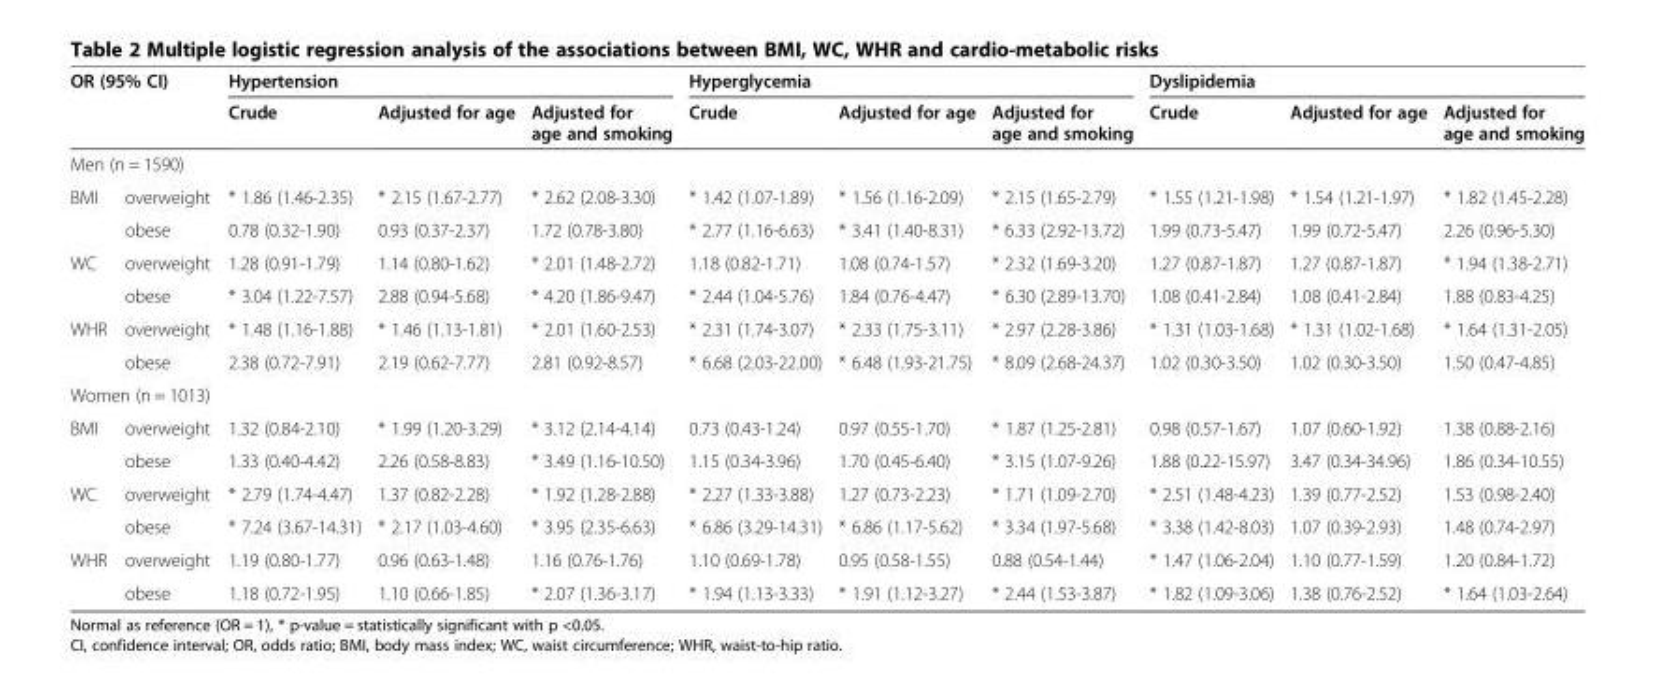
<table><thead><tr><td rowspan="3" colspan="2">OR (95% CI) Men (n = 1590)</td><td colspan="3">Hypertension</td><td colspan="3">Hyperglycemia</td><td colspan="3">Dyslipidemia</td></tr><tr><td rowspan="3">Crude * 1.86 (1.46-2.35)</td><td rowspan="3">Adjusted for age * 2.15 (1.67-2.77)</td><td rowspan="3">Adjusted for age and smoking * 2.62 (2.08-3.30)</td><td rowspan="3">Crude * 1.42 (1.07-1.89)</td><td rowspan="3">Adjusted for age * 1.56 (1.16-2.09)</td><td rowspan="3">Adjusted for age and smoking * 2.15 (1.65-2.79)</td><td rowspan="3">Crude * 1.55 (1.21-1.98)</td><td rowspan="3">Adjusted for age * 1.54 (1.21-1.97)</td><td rowspan="3">Adjusted for age and smoking * 1.82 (1.45-2.28)</td></tr><tr></tr><tr><td>BMI</td><td>overweight</td></tr></thead><tbody><tr><td></td><td>obese</td><td>0.78 (0.32-1.90)</td><td>0.93 (0.37-2.37)</td><td>1.72 (0.78-3.80)</td><td>* 2.77 (1.16-6.63)</td><td>* 3.41 (1.40-8.31)</td><td>* 6.33 (2.92-13.72)</td><td>1.99 (0.73-5.47)</td><td>1.99 (0.72-5.47)</td><td>2.26 (0.96-5.30)</td></tr><tr><td rowspan="2">WC</td><td>overweight</td><td>1.28 (0.91-1.79)</td><td>1.14 (0.80-1.62)</td><td>* 2.01 (1.48-2.72)</td><td>1.18 (0.82-1.71)</td><td>1.08 (0.74-1.57)</td><td>* 2.32 (1.69-3.20)</td><td>1.27 (0.87-1.87)</td><td>1.27 (0.87-1.87)</td><td>* 1.94 (1.38-2.71)</td></tr><tr><td>obese</td><td>* 3.04 (1.22-7.57)</td><td>2.88 (0.94-5.68)</td><td>* 4.20 (1.86-9.47)</td><td>* 2.44 (1.04-5.76)</td><td>1.84 (0.76-4.47)</td><td>* 6.30 (2.89-13.70)</td><td>1.08 (0.41-2.84)</td><td>1.08 (0.41-2.84)</td><td>1.88 (0.83-4.25)</td></tr><tr><td rowspan="2">WHR</td><td>overweight</td><td>* 1.48 (1.16-1.88)</td><td>* 1.46 (1.13-1.81)</td><td>* 2.01 (1.60-2.53)</td><td>* 2.31 (1.74-3.07)</td><td>* 2.33 (1.75-3.11)</td><td>* 2.97 (2.28-3.86)</td><td>* 1.31 (1.03-1.68)</td><td>* 1.31 (1.02-1.68)</td><td>* 1.64 (1.31-2.05)</td></tr><tr><td>obese</td><td>2.38 (0.72-7.91)</td><td>2.19 (0.62-7.77)</td><td>2.81 (0.92-8.57)</td><td>* 6.68 (2.03-22.00)</td><td>* 6.48 (1.93-21.75)</td><td>* 8.09 (2.68-24.37)</td><td>1.02 (0.30-3.50)</td><td>1.02 (0.30-3.50)</td><td>1.50 (0.47-4.85)</td></tr><tr><td colspan="11">Women (n = 1013)</td></tr><tr><td rowspan="2">BMI</td><td>overweight</td><td>1.32 (0.84-2.10)</td><td>* 1.99 (1.20-3.29)</td><td>* 3.12 (2.14-4.14)</td><td>0.73 (0.43-1.24)</td><td>0.97 (0.55-1.70)</td><td>* 1.87 (1.25-2.81)</td><td>0.98 (0.57-1.67)</td><td>1.07 (0.60-1.92)</td><td>1.38 (0.88-2.16)</td></tr><tr><td>obese</td><td>1.33 (0.40-4.42)</td><td>2.26 (0.58-8.83)</td><td>* 3.49 (1.16-10.50)</td><td>1.15 (0.34-3.96)</td><td>1.70 (0.45-6.40)</td><td>* 3.15 (1.07-9.26)</td><td>1.88 (0.22-15.97)</td><td>3.47 (0.34-34.96)</td><td>1.86 (0.34-10.55)</td></tr><tr><td rowspan="2">WC</td><td>overweight</td><td>* 2.79 (1.74-4.47)</td><td>1.37 (0.82-2.28)</td><td>* 1.92 (1.28-2.88)</td><td>* 2.27 (1.33-3.88)</td><td>1.27 (0.73-2.23)</td><td>* 1.71 (1.09-2.70)</td><td>* 2.51 (1.48-4.23)</td><td>1.39 (0.77-2.52)</td><td>1.53 (0.98-2.40)</td></tr><tr><td>obese</td><td>* 7.24 (3.67-14.31)</td><td>* 2.17 (1.03-4.60)</td><td>* 3.95 (2.35-6.63)</td><td>* 6.86 (3.29-14.31)</td><td>* 6.86 (1.17-5.62)</td><td>* 3.34 (1.97-5.68)</td><td>* 3.38 (1.42-8.03)</td><td>1.07 (0.39-2.93)</td><td>1.48 (0.74-2.97)</td></tr><tr><td rowspan="2">WHR</td><td>overweight</td><td>1.19 (0.80-1.77)</td><td>0.96 (0.63-1.48)</td><td>1.16 (0.76-1.76)</td><td>1.10 (0.69-1.78)</td><td>0.95 (0.58-1.55)</td><td>0.88 (0.54-1.44)</td><td>* 1.47 (1.06-2.04)</td><td>1.10 (0.77-1.59)</td><td>1.20 (0.84-1.72)</td></tr><tr><td>obese</td><td>1.18 (0.72-1.95)</td><td>1.10 (0.66-1.85)</td><td>* 2.07 (1.36-3.17)</td><td>* 1.94 (1.13-3.33)</td><td>* 1.91 (1.12-3.27)</td><td>* 2.44 (1.53-3.87)</td><td>* 1.82 (1.09-3.06)</td><td>1.38 (0.76-2.52)</td><td>* 1.64 (1.03-2.64)</td></tr></tbody></table>